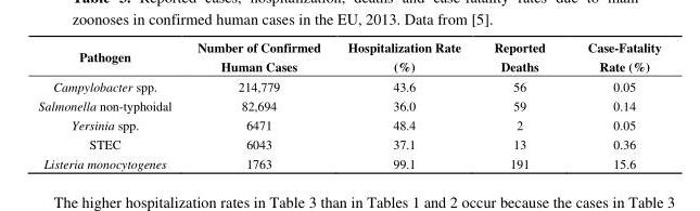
<table><thead><tr><td>Pathogen</td><td>Number of Confirmed Human Cases</td><td>Hospitalization Rate (%)</td><td>Reported Deaths</td><td>Case-Fatality Rate (%)</td></tr></thead><tbody><tr><td>Campylobacter spp.</td><td>214,779</td><td>43.6</td><td>56</td><td>0.05</td></tr><tr><td>Salmonella non-typhoidal</td><td>82,694</td><td>36.0</td><td>59</td><td>0.14</td></tr><tr><td>Yersinia spp.</td><td>6471</td><td>48.4</td><td>2</td><td>0.05</td></tr><tr><td>STEC</td><td>6043</td><td>37.1</td><td>13</td><td>0.36</td></tr><tr><td>Listeria monocytogenes</td><td>1763</td><td>99.1</td><td>191</td><td>15.6</td></tr></tbody></table>